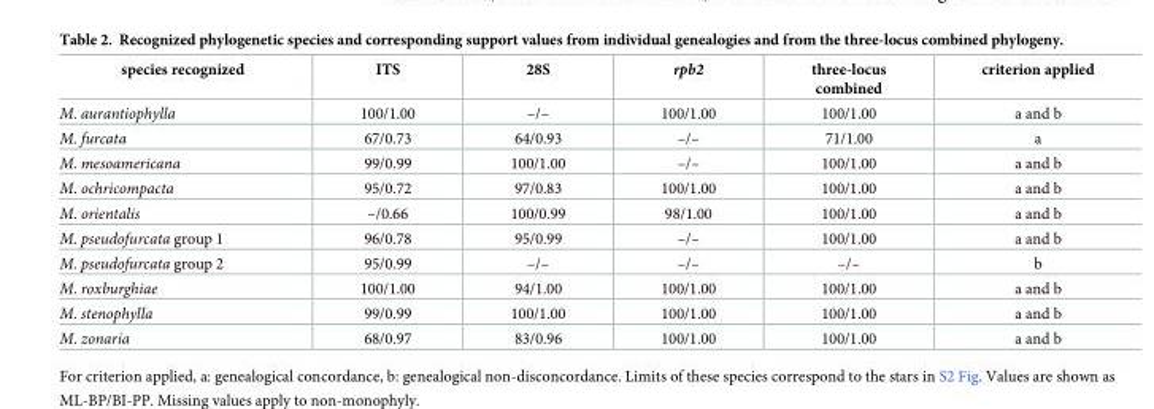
<table><thead><tr><td>species recognized</td><td>ITS</td><td>28S</td><td>rpb2</td><td>three-locus combined</td><td>criterion applied</td></tr></thead><tbody><tr><td>M. aurantiophylla</td><td>100/1.00</td><td>–/–</td><td>100/1.00</td><td>100/1.00</td><td>a and b</td></tr><tr><td>M. furcata</td><td>67/0.73</td><td>64/0.93</td><td>–/–</td><td>71/1.00</td><td>a</td></tr><tr><td>M. mesoamericana</td><td>99/0.99</td><td>100/1.00</td><td>–/–</td><td>100/1.00</td><td>a and b</td></tr><tr><td>M. ochricompacta</td><td>95/0.72</td><td>97/0.83</td><td>100/1.00</td><td>100/1.00</td><td>a and b</td></tr><tr><td>M. orientalis</td><td>–/0.66</td><td>100/0.99</td><td>98/1.00</td><td>100/1.00</td><td>a and b</td></tr><tr><td>M. pseudofurcata group 1</td><td>96/0.78</td><td>95/0.99</td><td>–/–</td><td>100/1.00</td><td>a and b</td></tr><tr><td>M. pseudofurcata group 2</td><td>95/0.99</td><td>–/–</td><td>–/–</td><td>–/–</td><td>b</td></tr><tr><td>M. roxburghiae</td><td>100/1.00</td><td>94/1.00</td><td>100/1.00</td><td>100/1.00</td><td>a and b</td></tr><tr><td>M. stenophylla</td><td>99/0.99</td><td>100/1.00</td><td>100/1.00</td><td>100/1.00</td><td>a and b</td></tr><tr><td>M. zonaria</td><td>68/0.97</td><td>83/0.96</td><td>100/1.00</td><td>100/1.00</td><td>a and b</td></tr></tbody></table>